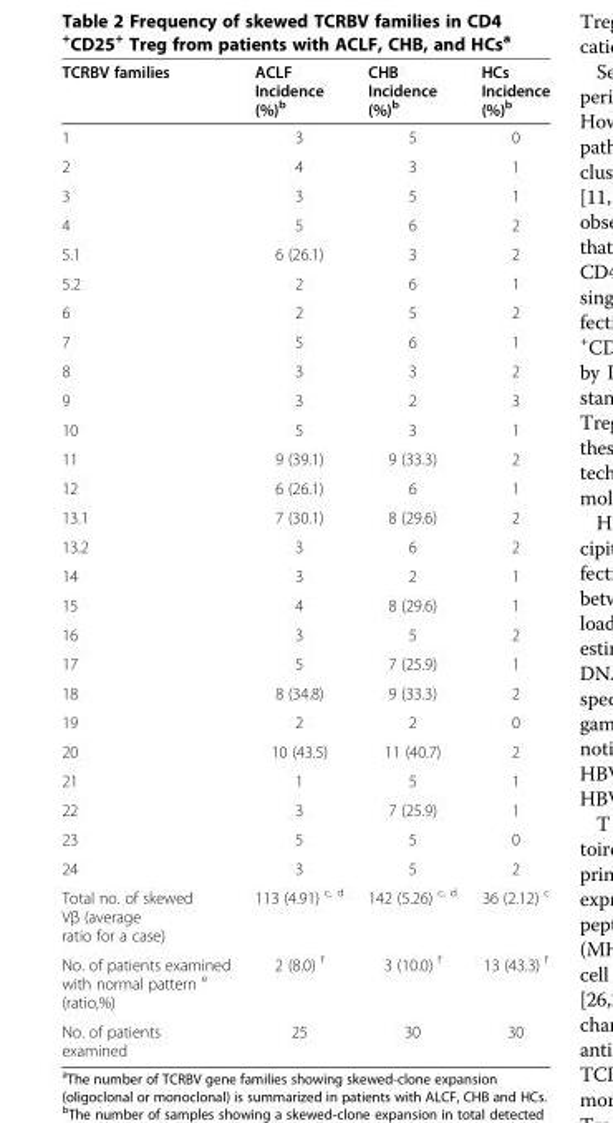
<table><thead><tr><td>TCRBV families</td><td>ACLF Incidence (%)<sup>b</sup></td><td>CHB Incidence (%)<sup>b</sup></td><td>HCs Incidence (%)<sup>b</sup></td></tr></thead><tbody><tr><td>1</td><td>3</td><td>5</td><td>0</td></tr><tr><td>2</td><td>4</td><td>3</td><td>1</td></tr><tr><td>3</td><td>3</td><td>5</td><td>1</td></tr><tr><td>4</td><td>5</td><td>6</td><td>2</td></tr><tr><td>5.1</td><td>6 (26.1)</td><td>3</td><td>2</td></tr><tr><td>5.2</td><td>2</td><td>6</td><td>1</td></tr><tr><td>6</td><td>2</td><td>5</td><td>2</td></tr><tr><td>7</td><td>5</td><td>6</td><td>1</td></tr><tr><td>8</td><td>3</td><td>3</td><td>2</td></tr><tr><td>9</td><td>3</td><td>2</td><td>3</td></tr><tr><td>10</td><td>5</td><td>3</td><td>1</td></tr><tr><td>11</td><td>9 (39.1)</td><td>9 (33.3)</td><td>2</td></tr><tr><td>12</td><td>6 (26.1)</td><td>6</td><td>1</td></tr><tr><td>13.1</td><td>7 (30.1)</td><td>8 (29.6)</td><td>2</td></tr><tr><td>13.2</td><td>3</td><td>6</td><td>2</td></tr><tr><td>14</td><td>3</td><td>2</td><td>1</td></tr><tr><td>15</td><td>4</td><td>8 (29.6)</td><td>1</td></tr><tr><td>16</td><td>3</td><td>5</td><td>2</td></tr><tr><td>17</td><td>5</td><td>7 (25.9)</td><td>1</td></tr><tr><td>18</td><td>8 (34.8)</td><td>9 (33.3)</td><td>2</td></tr><tr><td>19</td><td>2</td><td>2</td><td>0</td></tr><tr><td>20</td><td>10 (43.5)</td><td>11 (40.7)</td><td>2</td></tr><tr><td>21</td><td>1</td><td>5</td><td>1</td></tr><tr><td>22</td><td>3</td><td>7 (25.9)</td><td>1</td></tr><tr><td>23</td><td>5</td><td>5</td><td>0</td></tr><tr><td>24</td><td>3</td><td>5</td><td>2</td></tr><tr><td>Total no. of skewed Vβ (average ratio for a case)</td><td>113 (4.91) <sup>c, d</sup></td><td>142 (5.26) <sup>c, d</sup></td><td>36 (2.12) <sup>c</sup></td></tr><tr><td>No. of patients examined with normal pattern <sup>e</sup> (ratio,%)</td><td>2 (8.0) <sup>f</sup></td><td>3 (10.0) <sup>f</sup></td><td>13 (43.3) <sup>f</sup></td></tr><tr><td>No. of patients examined</td><td>25</td><td>30</td><td>30</td></tr></tbody></table>